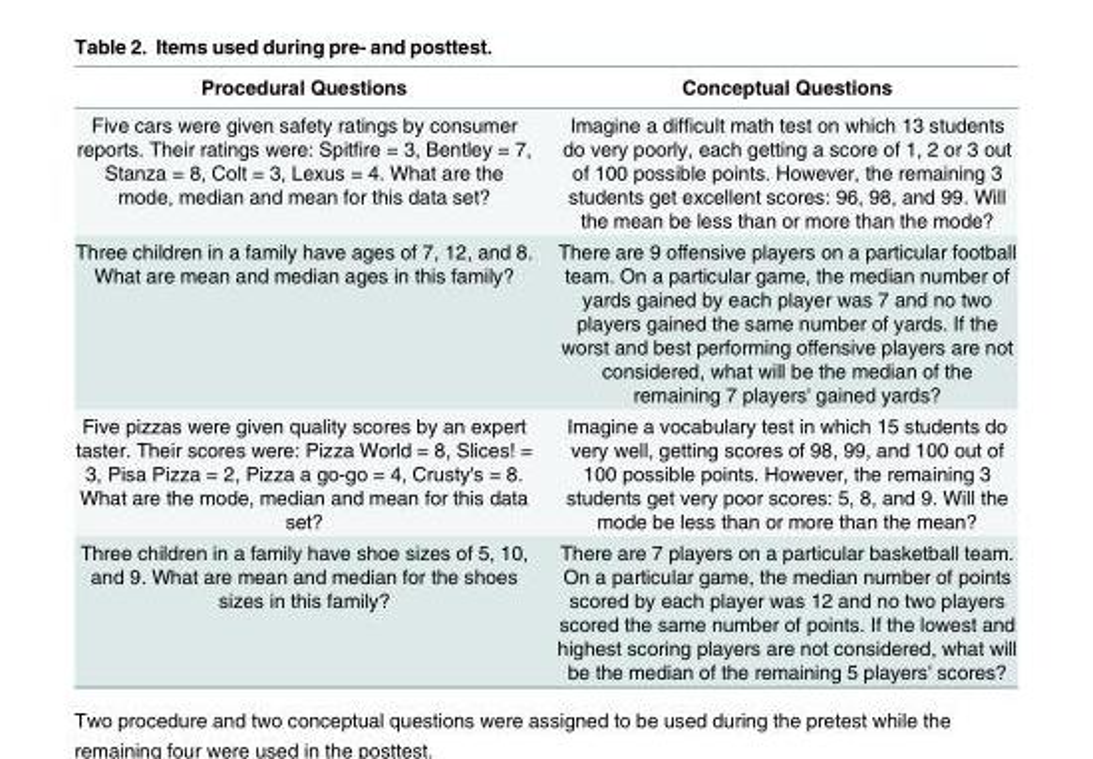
<table><thead><tr><td>Procedural Questions</td><td>Conceptual Questions</td></tr></thead><tbody><tr><td>Five cars were given safety ratings by consumer reports. Their ratings were: Spitfire = 3, Bentley = 7, Stanza = 8, Colt = 3, Lexus = 4. What are the mode, median and mean for this data set?</td><td>Imagine a difficult math test on which 13 students do very poorly, each getting a score of 1, 2 or 3 out of 100 possible points. However, the remaining 3 students get excellent scores: 96, 98, and 99. Will the mean be less than or more than the mode?</td></tr><tr><td>Three children in a family have ages of 7, 12, and 8. What are mean and median ages in this family?</td><td>There are 9 offensive players on a particular football team. On a particular game, the median number of yards gained by each player was 7 and no two players gained the same number of yards. If the worst and best performing offensive players are not considered, what will be the median of the remaining 7 players&#x27; gained yards?</td></tr><tr><td>Five pizzas were given quality scores by an expert taster. Their scores were: Pizza World = 8, Slices! = 3, Pisa Pizza = 2, Pizza a go-go = 4, Crusty&#x27;s = 8. What are the mode, median and mean for this data set?</td><td>Imagine a vocabulary test in which 15 students do very well, getting scores of 98, 99, and 100 out of 100 possible points. However, the remaining 3 students get very poor scores: 5, 8, and 9. Will the mode be less than or more than the mean?</td></tr><tr><td>Three children in a family have shoe sizes of 5, 10, and 9. What are mean and median for the shoes sizes in this family?</td><td>There are 7 players on a particular basketball team. On a particular game, the median number of points scored by each player was 12 and no two players scored the same number of points. If the lowest and highest scoring players are not considered, what will be the median of the remaining 5 players&#x27; scores?</td></tr></tbody></table>